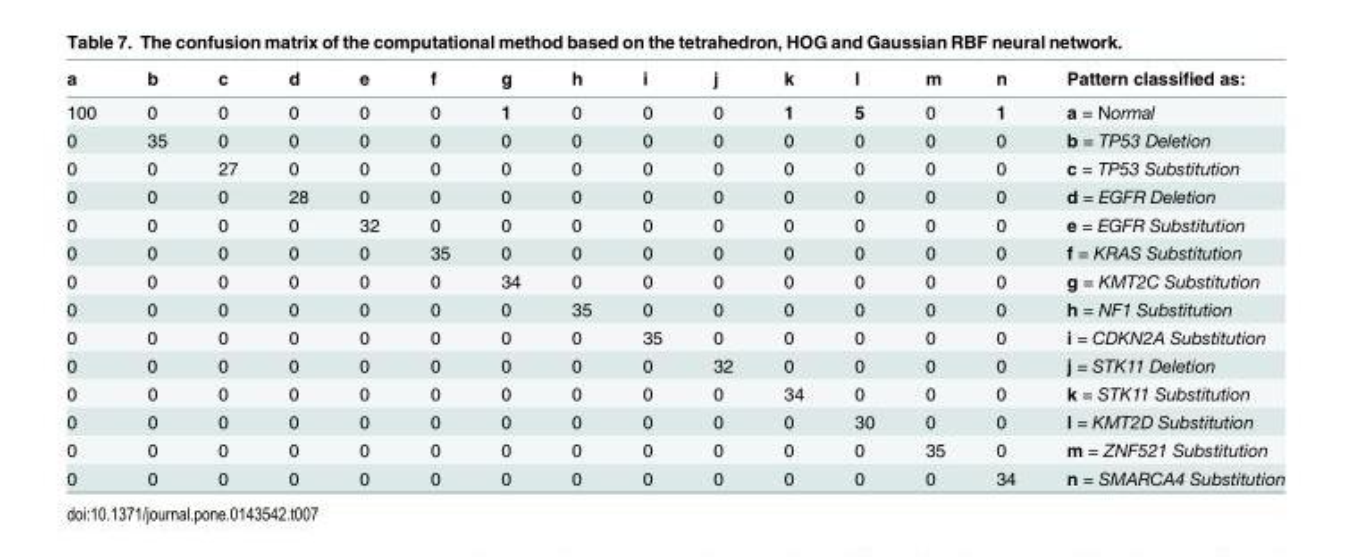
<table><thead><tr><td>a</td><td>b</td><td>c</td><td>d</td><td>e</td><td>f</td><td>g</td><td>h</td><td>i</td><td>j</td><td>k</td><td>l</td><td>m</td><td>n</td><td>Pattern classified as:</td></tr></thead><tbody><tr><td>100</td><td>0</td><td>0</td><td>0</td><td>0</td><td>0</td><td>1</td><td>0</td><td>0</td><td>0</td><td>1</td><td>5</td><td>0</td><td>1</td><td>a = Normal</td></tr><tr><td>0</td><td>35</td><td>0</td><td>0</td><td>0</td><td>0</td><td>0</td><td>0</td><td>0</td><td>0</td><td>0</td><td>0</td><td>0</td><td>0</td><td>b = TP53 Deletion</td></tr><tr><td>0</td><td>0</td><td>27</td><td>0</td><td>0</td><td>0</td><td>0</td><td>0</td><td>0</td><td>0</td><td>0</td><td>0</td><td>0</td><td>0</td><td>c = TP53 Substitution</td></tr><tr><td>0</td><td>0</td><td>0</td><td>28</td><td>0</td><td>0</td><td>0</td><td>0</td><td>0</td><td>0</td><td>0</td><td>0</td><td>0</td><td>0</td><td>d = EGFR Deletion</td></tr><tr><td>0</td><td>0</td><td>0</td><td>0</td><td>32</td><td>0</td><td>0</td><td>0</td><td>0</td><td>0</td><td>0</td><td>0</td><td>0</td><td>0</td><td>e = EGFR Substitution</td></tr><tr><td>0</td><td>0</td><td>0</td><td>0</td><td>0</td><td>35</td><td>0</td><td>0</td><td>0</td><td>0</td><td>0</td><td>0</td><td>0</td><td>0</td><td>f = KRAS Substitution</td></tr><tr><td>0</td><td>0</td><td>0</td><td>0</td><td>0</td><td>0</td><td>34</td><td>0</td><td>0</td><td>0</td><td>0</td><td>0</td><td>0</td><td>0</td><td>g = KMT2C Substitution</td></tr><tr><td>0</td><td>0</td><td>0</td><td>0</td><td>0</td><td>0</td><td>0</td><td>35</td><td>0</td><td>0</td><td>0</td><td>0</td><td>0</td><td>0</td><td>h = NF1 Substitution</td></tr><tr><td>0</td><td>0</td><td>0</td><td>0</td><td>0</td><td>0</td><td>0</td><td>0</td><td>35</td><td>0</td><td>0</td><td>0</td><td>0</td><td>0</td><td>i = CDKN2A Substitution</td></tr><tr><td>0</td><td>0</td><td>0</td><td>0</td><td>0</td><td>0</td><td>0</td><td>0</td><td>0</td><td>32</td><td>0</td><td>0</td><td>0</td><td>0</td><td>j = STK11 Deletion</td></tr><tr><td>0</td><td>0</td><td>0</td><td>0</td><td>0</td><td>0</td><td>0</td><td>0</td><td>0</td><td>0</td><td>34</td><td>0</td><td>0</td><td>0</td><td>k = STK11 Substitution</td></tr><tr><td>0</td><td>0</td><td>0</td><td>0</td><td>0</td><td>0</td><td>0</td><td>0</td><td>0</td><td>0</td><td>0</td><td>30</td><td>0</td><td>0</td><td>l = KMT2D Substitution</td></tr><tr><td>0</td><td>0</td><td>0</td><td>0</td><td>0</td><td>0</td><td>0</td><td>0</td><td>0</td><td>0</td><td>0</td><td>0</td><td>35</td><td>0</td><td>m = ZNF521 Substitution</td></tr><tr><td>0</td><td>0</td><td>0</td><td>0</td><td>0</td><td>0</td><td>0</td><td>0</td><td>0</td><td>0</td><td>0</td><td>0</td><td>0</td><td>34</td><td>n = SMARCA4 Substitution</td></tr></tbody></table>